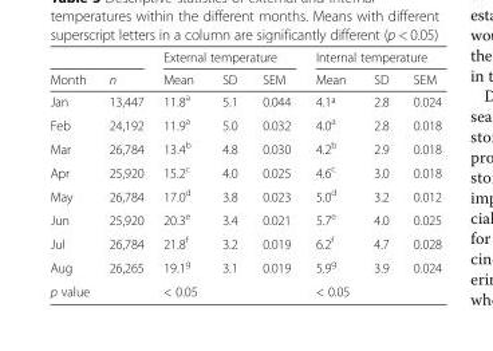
<table><thead><tr><td rowspan="2">Month</td><td rowspan="2">n</td><td colspan="3">External temperature</td><td colspan="3">Internal temperature</td></tr><tr><td>Mean</td><td>SD</td><td>SEM</td><td>Mean</td><td>SD</td><td>SEM</td></tr></thead><tbody><tr><td>Jan</td><td>13,447</td><td>11.8<sup>a</sup></td><td>5.1</td><td>0.044</td><td>4.1ª</td><td>2.8</td><td>0.024</td></tr><tr><td>Feb</td><td>24,192</td><td>11.9<sup>a</sup></td><td>5.0</td><td>0.032</td><td>4.0<sup>a</sup></td><td>2.8</td><td>0.018</td></tr><tr><td>Mar</td><td>26,784</td><td>13.4<sup>b</sup></td><td>4.8</td><td>0.030</td><td>4.2<sup>b</sup></td><td>2.9</td><td>0.018</td></tr><tr><td>Apr</td><td>25,920</td><td>15.2<sup>c</sup></td><td>4.0</td><td>0.025</td><td>4.6<sup>c</sup></td><td>3.0</td><td>0.018</td></tr><tr><td>May</td><td>26,784</td><td>17.0<sup>d</sup></td><td>3.8</td><td>0.023</td><td>5.0<sup>d</sup></td><td>3.2</td><td>0.012</td></tr><tr><td>Jun</td><td>25,920</td><td>20.3<sup>e</sup></td><td>3.4</td><td>0.021</td><td>5.7<sup>e</sup></td><td>4.0</td><td>0.025</td></tr><tr><td>Jul</td><td>26,784</td><td>21.8<sup>f</sup></td><td>3.2</td><td>0.019</td><td>6.2<sup>f</sup></td><td>4.7</td><td>0.028</td></tr><tr><td>Aug</td><td>26,265</td><td>19.1<sup>g</sup></td><td>3.1</td><td>0.019</td><td>5.9<sup>g</sup></td><td>3.9</td><td>0.024</td></tr><tr><td>p value</td><td></td><td>&lt; 0.05</td><td></td><td></td><td>&lt; 0.05</td><td></td><td></td></tr></tbody></table>